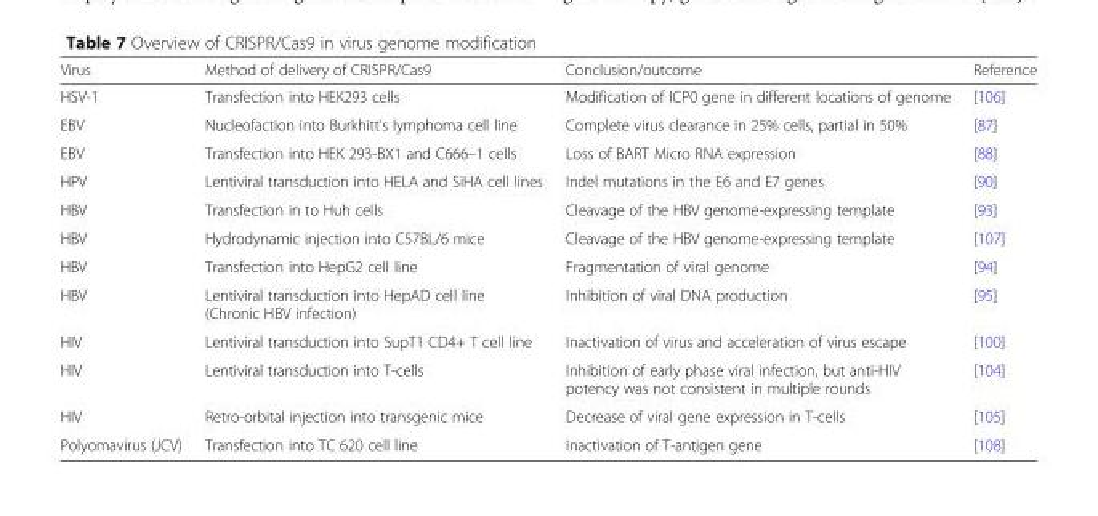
<table><thead><tr><td>Virus</td><td>Method of delivery of CRISPR/Cas9</td><td>Conclusion/outcome</td><td>Reference</td></tr></thead><tbody><tr><td>HSV-1</td><td>Transfection into HEK293 cells</td><td>Modification of ICP0 gene in different locations of genome</td><td>[106]</td></tr><tr><td>EBV</td><td>Nucleofaction into Burkhitt’s lymphoma cell line</td><td>Complete virus clearance in 25% cells, partial in 50%</td><td>[87]</td></tr><tr><td>EBV</td><td>Transfection into HEK 293-BX1 and C666–1 cells</td><td>Loss of BART Micro RNA expression</td><td>[88]</td></tr><tr><td>HPV</td><td>Lentiviral transduction into HELA and SiHA cell lines</td><td>Indel mutations in the E6 and E7 genes</td><td>[90]</td></tr><tr><td>HBV</td><td>Transfection in to Huh cells</td><td>Cleavage of the HBV genome-expressing template</td><td>[93]</td></tr><tr><td>HBV</td><td>Hydrodynamic injection into C57BL/6 mice</td><td>Cleavage of the HBV genome-expressing template</td><td>[107]</td></tr><tr><td>HBV</td><td>Transfection into HepG2 cell line</td><td>Fragmentation of viral genome</td><td>[94]</td></tr><tr><td>HBV</td><td>Lentiviral transduction into HepAD cell line (Chronic HBV infection)</td><td>Inhibition of viral DNA production</td><td>[95]</td></tr><tr><td>HIV</td><td>Lentiviral transduction into SupT1 CD4+ T cell line</td><td>Inactivation of virus and acceleration of virus escape</td><td>[100]</td></tr><tr><td>HIV</td><td>Lentiviral transduction into T-cells</td><td>Inhibition of early phase viral infection, but anti-HIV potency was not consistent in multiple rounds</td><td>[104]</td></tr><tr><td>HIV</td><td>Retro-orbital injection into transgenic mice</td><td>Decrease of viral gene expression in T-cells</td><td>[105]</td></tr><tr><td>Polyomavirus (JCV)</td><td>Transfection into TC 620 cell line</td><td>Inactivation of T-antigen gene</td><td>[108]</td></tr></tbody></table>